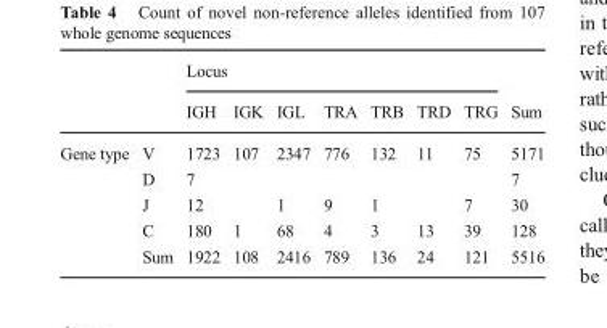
<table><thead><tr><td rowspan="2"></td><td rowspan="2"></td><td colspan="7">Locus</td><td rowspan="2">Sum</td></tr><tr><td>IGH</td><td>IGK</td><td>IGL</td><td>TRA</td><td>TRB</td><td>TRD</td><td>TRG</td></tr></thead><tbody><tr><td rowspan="5">Gene type</td><td>V</td><td>1723</td><td>107</td><td>2347</td><td>776</td><td>132</td><td>11</td><td>75</td><td>5171</td></tr><tr><td>D</td><td>7</td><td></td><td></td><td></td><td></td><td></td><td></td><td>7</td></tr><tr><td>J</td><td>12</td><td></td><td>1</td><td>9</td><td>1</td><td></td><td>7</td><td>30</td></tr><tr><td>C</td><td>180</td><td>1</td><td>68</td><td>4</td><td>3</td><td>13</td><td>39</td><td>128</td></tr><tr><td>Sum</td><td>1922</td><td>108</td><td>2416</td><td>789</td><td>136</td><td>24</td><td>121</td><td>5516</td></tr></tbody></table>